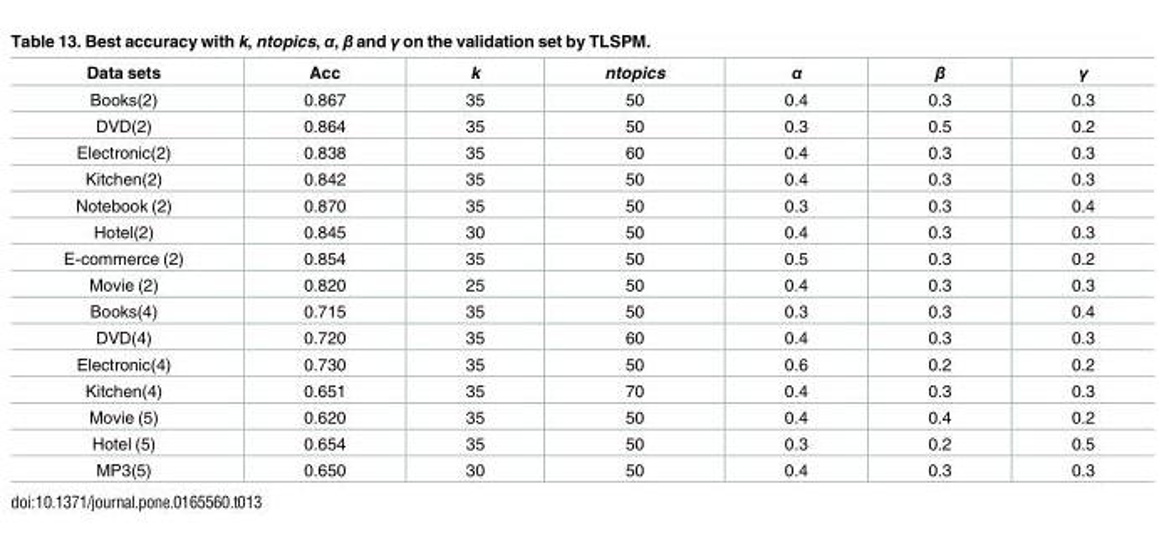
<table><thead><tr><td>Data sets</td><td>Acc</td><td>k</td><td>ntopics</td><td>α</td><td>β</td><td>γ</td></tr></thead><tbody><tr><td>Books(2)</td><td>0.867</td><td>35</td><td>50</td><td>0.4</td><td>0.3</td><td>0.3</td></tr><tr><td>DVD(2)</td><td>0.864</td><td>35</td><td>50</td><td>0.3</td><td>0.5</td><td>0.2</td></tr><tr><td>Electronic(2)</td><td>0.838</td><td>35</td><td>60</td><td>0.4</td><td>0.3</td><td>0.3</td></tr><tr><td>Kitchen(2)</td><td>0.842</td><td>35</td><td>50</td><td>0.4</td><td>0.3</td><td>0.3</td></tr><tr><td>Notebook (2)</td><td>0.870</td><td>35</td><td>50</td><td>0.3</td><td>0.3</td><td>0.4</td></tr><tr><td>Hotel(2)</td><td>0.845</td><td>30</td><td>50</td><td>0.4</td><td>0.3</td><td>0.3</td></tr><tr><td>E-commerce (2)</td><td>0.854</td><td>35</td><td>50</td><td>0.5</td><td>0.3</td><td>0.2</td></tr><tr><td>Movie (2)</td><td>0.820</td><td>25</td><td>50</td><td>0.4</td><td>0.3</td><td>0.3</td></tr><tr><td>Books(4)</td><td>0.715</td><td>35</td><td>50</td><td>0.3</td><td>0.3</td><td>0.4</td></tr><tr><td>DVD(4)</td><td>0.720</td><td>35</td><td>60</td><td>0.4</td><td>0.3</td><td>0.3</td></tr><tr><td>Electronic(4)</td><td>0.730</td><td>35</td><td>50</td><td>0.6</td><td>0.2</td><td>0.2</td></tr><tr><td>Kitchen(4)</td><td>0.651</td><td>35</td><td>70</td><td>0.4</td><td>0.3</td><td>0.3</td></tr><tr><td>Movie (5)</td><td>0.620</td><td>35</td><td>50</td><td>0.4</td><td>0.4</td><td>0.2</td></tr><tr><td>Hotel (5)</td><td>0.654</td><td>35</td><td>50</td><td>0.3</td><td>0.2</td><td>0.5</td></tr><tr><td>MP3(5)</td><td>0.650</td><td>30</td><td>50</td><td>0.4</td><td>0.3</td><td>0.3</td></tr></tbody></table>